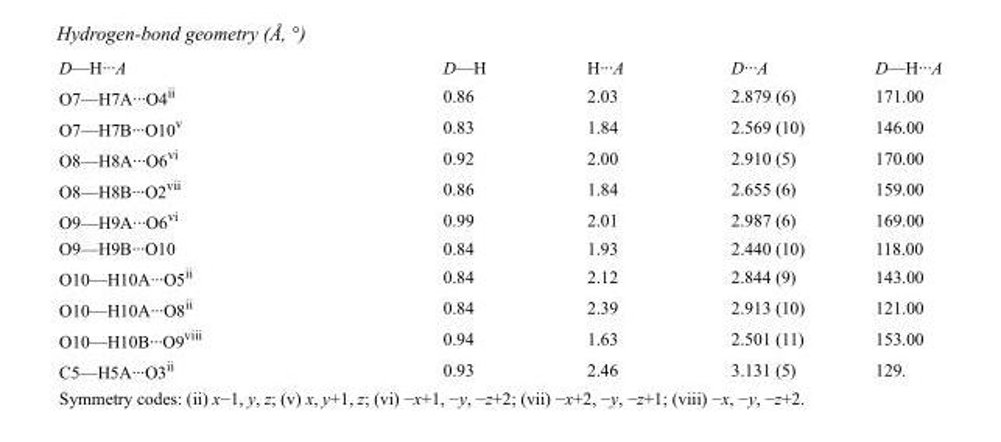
<table><tbody><tr><td>D—H···A</td><td>D—H</td><td>H···A</td><td>D···A</td><td>D—H···A</td></tr><tr><td>O7—H7A···O4<sup>ii</sup></td><td>0.86</td><td>2.03</td><td>2.879 (6)</td><td>171.00</td></tr><tr><td>O7—H7B···O10<sup>v</sup></td><td>0.83</td><td>1.84</td><td>2.569 (10)</td><td>146.00</td></tr><tr><td>O8—H8A···O6<sup>vi</sup></td><td>0.92</td><td>2.00</td><td>2.910 (5)</td><td>170.00</td></tr><tr><td>O8—H8B···O2<sup>vii</sup></td><td>0.86</td><td>1.84</td><td>2.655 (6)</td><td>159.00</td></tr><tr><td>O9—H9A···O6<sup>vi</sup></td><td>0.99</td><td>2.01</td><td>2.987 (6)</td><td>169.00</td></tr><tr><td>O9—H9B···O10</td><td>0.84</td><td>1.93</td><td>2.440 (10)</td><td>118.00</td></tr><tr><td>O10—H10A···O5<sup>ii</sup></td><td>0.84</td><td>2.12</td><td>2.844 (9)</td><td>143.00</td></tr><tr><td>O10—H10A···O8<sup>ii</sup></td><td>0.84</td><td>2.39</td><td>2.913 (10)</td><td>121.00</td></tr><tr><td>O10—H10B···O9<sup>viii</sup></td><td>0.94</td><td>1.63</td><td>2.501 (11)</td><td>153.00</td></tr><tr><td>C5—H5A···O3<sup>ii</sup></td><td>0.93</td><td>2.46</td><td>3.131 (5)</td><td>129.</td></tr></tbody></table>